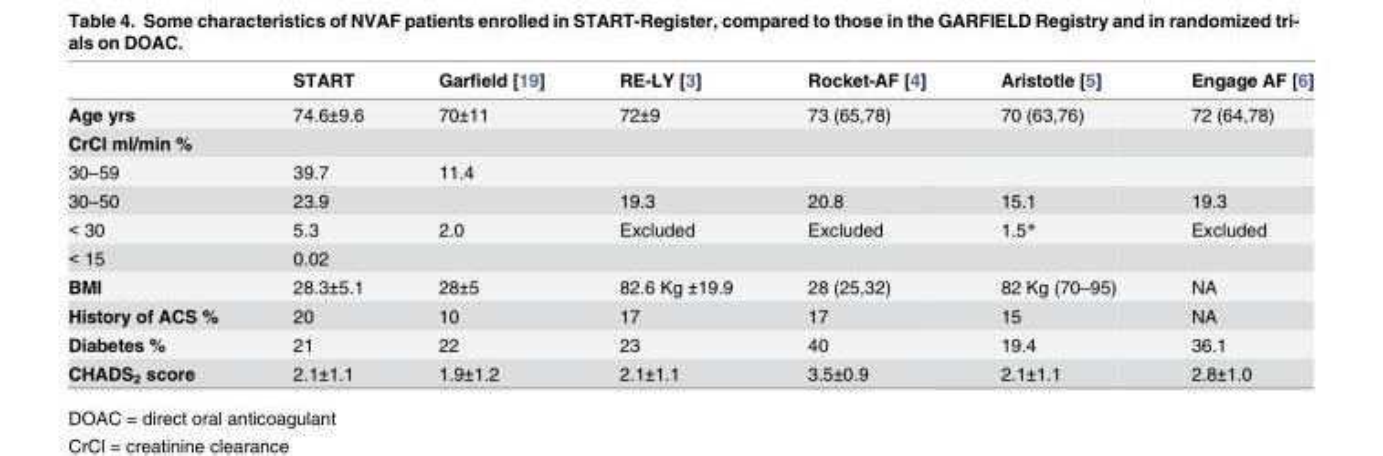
<table><thead><tr><td></td><td>START</td><td>Garfield [19]</td><td>RE-LY [3]</td><td>Rocket-AF [4]</td><td>Aristotle [5]</td><td>Engage AF [6]</td></tr></thead><tbody><tr><td>Age yrs</td><td>74.6±9.6</td><td>70±11</td><td>72±9</td><td>73 (65,78)</td><td>70 (63,76)</td><td>72 (64,78)</td></tr><tr><td colspan="7">CrCl ml/min %</td></tr><tr><td>30–59</td><td>39.7</td><td>11.4</td><td></td><td></td><td></td><td></td></tr><tr><td>30–50</td><td>23.9</td><td></td><td>19.3</td><td>20.8</td><td>15.1</td><td>19.3</td></tr><tr><td>&lt; 30</td><td>5.3</td><td>2.0</td><td>Excluded</td><td>Excluded</td><td>1.5*</td><td>Excluded</td></tr><tr><td>&lt; 15</td><td>0.02</td><td></td><td></td><td></td><td></td><td></td></tr><tr><td>BMI</td><td>28.3±5.1</td><td>28±5</td><td>82.6 Kg ±19.9</td><td>28 (25,32)</td><td>82 Kg (70–95)</td><td>NA</td></tr><tr><td>History of ACS %</td><td>20</td><td>10</td><td>17</td><td>17</td><td>15</td><td>NA</td></tr><tr><td>Diabetes %</td><td>21</td><td>22</td><td>23</td><td>40</td><td>19.4</td><td>36.1</td></tr><tr><td>CHADS<sub>2</sub> score</td><td>2.1±1.1</td><td>1.9±1.2</td><td>2.1±1.1</td><td>3.5±0.9</td><td>2.1±1.1</td><td>2.8±1.0</td></tr></tbody></table>